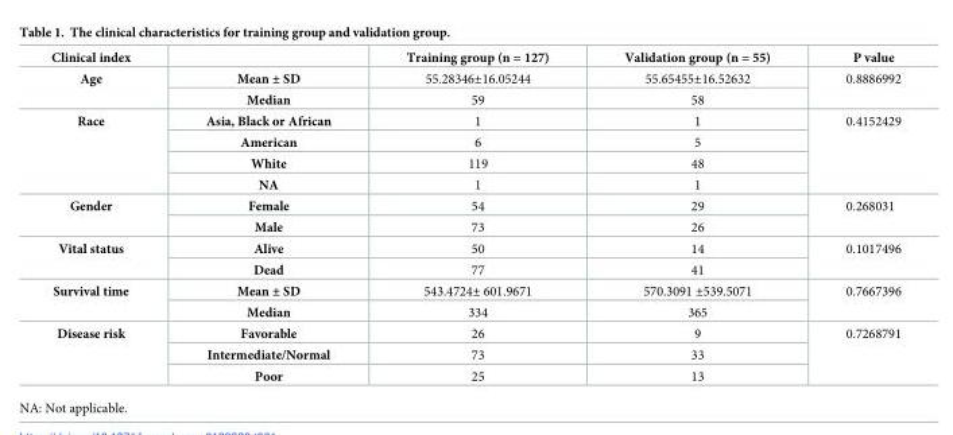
<table><thead><tr><td>Clinical index</td><td></td><td>Training group (n = 127)</td><td>Validation group (n = 55)</td><td>P value</td></tr></thead><tbody><tr><td rowspan="2">Age</td><td>Mean ± SD</td><td>55.28346±16.05244</td><td>55.65455±16.52632</td><td rowspan="2">0.8886992</td></tr><tr><td>Median</td><td>59</td><td>58</td></tr><tr><td rowspan="4">Race</td><td>Asia, Black or African</td><td>1</td><td>1</td><td rowspan="4">0.4152429</td></tr><tr><td>American</td><td>6</td><td>5</td></tr><tr><td>White</td><td>119</td><td>48</td></tr><tr><td>NA</td><td>1</td><td>1</td></tr><tr><td rowspan="2">Gender</td><td>Female</td><td>54</td><td>29</td><td rowspan="2">0.268031</td></tr><tr><td>Male</td><td>73</td><td>26</td></tr><tr><td rowspan="2">Vital status</td><td>Alive</td><td>50</td><td>14</td><td rowspan="2">0.1017496</td></tr><tr><td>Dead</td><td>77</td><td>41</td></tr><tr><td rowspan="2">Survival time</td><td>Mean ± SD</td><td>543.4724± 601.9671</td><td>570.3091 ±539.5071</td><td rowspan="2">0.7667396</td></tr><tr><td>Median</td><td>334</td><td>365</td></tr><tr><td rowspan="3">Disease risk</td><td>Favorable</td><td>26</td><td>9</td><td rowspan="3">0.7268791</td></tr><tr><td>Intermediate/Normal</td><td>73</td><td>33</td></tr><tr><td>Poor</td><td>25</td><td>13</td></tr></tbody></table>